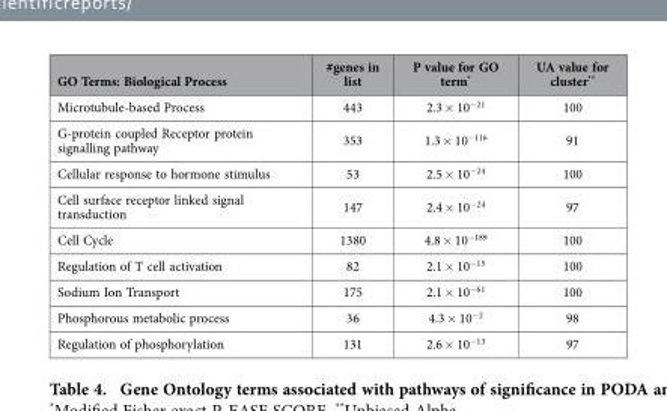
<table><thead><tr><td>GO Terms: Biological Process</td><td>#genes in list</td><td>P value for GO term*</td><td>UA value for cluster**</td></tr></thead><tbody><tr><td>Microtubule-based Process</td><td>443</td><td>2.3 × 10<sup>−21</sup></td><td>100</td></tr><tr><td>G-protein coupled Receptor protein signalling pathway</td><td>353</td><td>1.3 × 10<sup>−116</sup></td><td>91</td></tr><tr><td>Cellular response to hormone stimulus</td><td>53</td><td>2.5 × 10<sup>−24</sup></td><td>100</td></tr><tr><td>Cell surface receptor linked signal transduction</td><td>147</td><td>2.4 × 10<sup>−24</sup></td><td>97</td></tr><tr><td>Cell Cycle</td><td>1380</td><td>4.8 × 10<sup>−189</sup></td><td>100</td></tr><tr><td>Regulation of T cell activation</td><td>82</td><td>2.1 × 10<sup>−15</sup></td><td>100</td></tr><tr><td>Sodium Ion Transport</td><td>175</td><td>2.1 × 10<sup>−61</sup></td><td>100</td></tr><tr><td>Phosphorous metabolic process</td><td>36</td><td>4.3 × 10<sup>−2</sup></td><td>98</td></tr><tr><td>Regulation of phosphorylation</td><td>131</td><td>2.6 × 10<sup>−13</sup></td><td>97</td></tr></tbody></table>